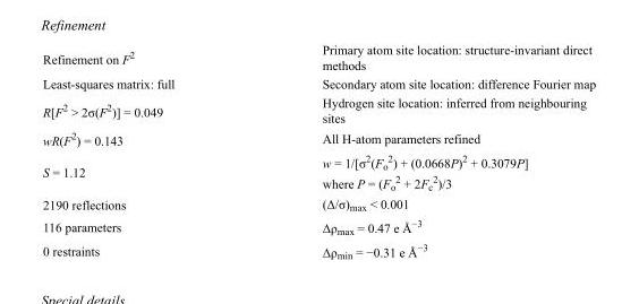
<table><tbody><tr><td>Refinement on F<sup>2</sup></td><td>Primary atom site location: structure-invariant direct methods</td></tr><tr><td>Least-squares matrix: full</td><td>Secondary atom site location: difference Fourier map</td></tr><tr><td>R[F<sup>2</sup> &gt; 2σ(F<sup>2</sup>)] = 0.049</td><td>Hydrogen site location: inferred from neighbouring sites</td></tr><tr><td>wR(F<sup>2</sup>) = 0.143</td><td>All H-atom parameters refined</td></tr><tr><td>S = 1.12</td><td>w = 1/[σ<sup>2</sup>(F<sub>o</sub> <sup>2</sup>) + (0.0668P)<sup>2</sup> + 0.3079P] where P = (F<sub>o</sub> <sup>2</sup> + 2F<sub>c</sub> <sup>2</sup>)/3</td></tr><tr><td>2190 reflections</td><td>(Δ/σ)<sub>max</sub> &lt; 0.001</td></tr><tr><td>116 parameters</td><td>Δρ<sub>max</sub> = 0.47 e Å<sup>−3</sup></td></tr><tr><td>0 restraints</td><td>Δρ<sub>min</sub> = −0.31 e Å<sup>−3</sup></td></tr></tbody></table>